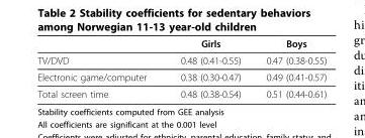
<table><thead><tr><td></td><td>Girls</td><td>Boys</td></tr></thead><tbody><tr><td>TV/DVD</td><td>0.48 (0.41-0.55)</td><td>0.47 (0.38-0.55)</td></tr><tr><td>Electronic game/computer</td><td>0.38 (0.30-0.47)</td><td>0.49 (0.41-0.57)</td></tr><tr><td>Total screen time</td><td>0.48 (0.38-0.54)</td><td>0.51 (0.44-0.61)</td></tr></tbody></table>